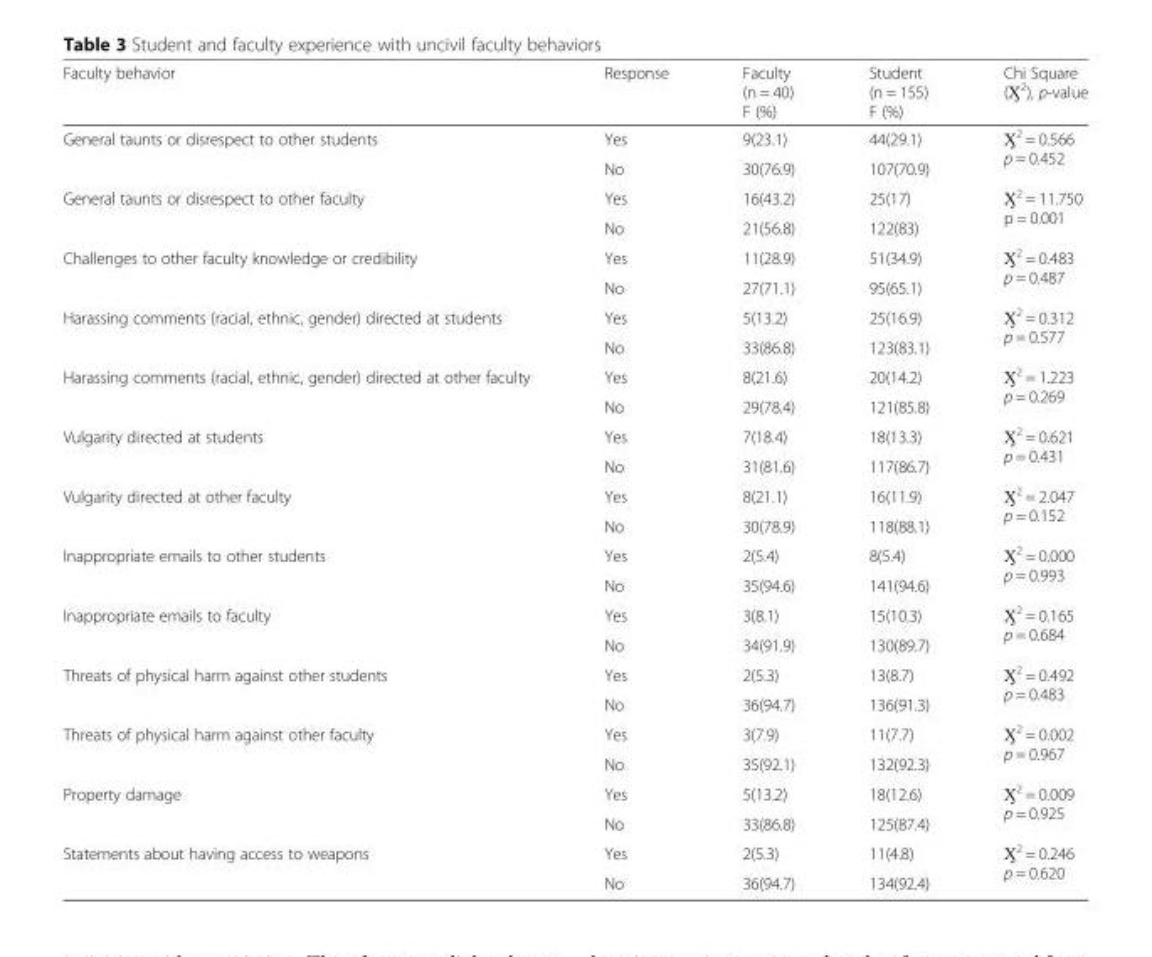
<table><thead><tr><td>Faculty behavior</td><td>Response</td><td>Faculty (n = 40) F (%)</td><td>Student (n = 155) F (%)</td><td>Chi Square (Ӽ<sup>2</sup>), p-value</td></tr></thead><tbody><tr><td rowspan="2">General taunts or disrespect to other students</td><td>Yes</td><td>9(23.1)</td><td>44(29.1)</td><td rowspan="2">Ӽ<sup>2</sup> = 0.566 p = 0.452</td></tr><tr><td>No</td><td>30(76.9)</td><td>107(70.9)</td></tr><tr><td rowspan="2">General taunts or disrespect to other faculty</td><td>Yes</td><td>16(43.2)</td><td>25(17)</td><td rowspan="2">Ӽ<sup>2</sup> = 11.750 p = 0.001</td></tr><tr><td>No</td><td>21(56.8)</td><td>122(83)</td></tr><tr><td rowspan="2">Challenges to other faculty knowledge or credibility</td><td>Yes</td><td>11(28.9)</td><td>51(34.9)</td><td rowspan="2">Ӽ<sup>2</sup> = 0.483 p = 0.487</td></tr><tr><td>No</td><td>27(71.1)</td><td>95(65.1)</td></tr><tr><td rowspan="2">Harassing comments (racial, ethnic, gender) directed at students</td><td>Yes</td><td>5(13.2)</td><td>25(16.9)</td><td rowspan="2">Ӽ<sup>2</sup> = 0.312 p = 0.577</td></tr><tr><td>No</td><td>33(86.8)</td><td>123(83.1)</td></tr><tr><td rowspan="2">Harassing comments (racial, ethnic, gender) directed at other faculty</td><td>Yes</td><td>8(21.6)</td><td>20(14.2)</td><td rowspan="2">Ӽ<sup>2</sup> = 1.223 p = 0.269</td></tr><tr><td>No</td><td>29(78.4)</td><td>121(85.8)</td></tr><tr><td rowspan="2">Vulgarity directed at students</td><td>Yes</td><td>7(18.4)</td><td>18(13.3)</td><td rowspan="2">Ӽ<sup>2</sup> = 0.621 p = 0.431</td></tr><tr><td>No</td><td>31(81.6)</td><td>117(86.7)</td></tr><tr><td rowspan="2">Vulgarity directed at other faculty</td><td>Yes</td><td>8(21.1)</td><td>16(11.9)</td><td rowspan="2">Ӽ<sup>2</sup> = 2.047 p = 0.152</td></tr><tr><td>No</td><td>30(78.9)</td><td>118(88.1)</td></tr><tr><td rowspan="2">Inappropriate emails to other students</td><td>Yes</td><td>2(5.4)</td><td>8(5.4)</td><td rowspan="2">Ӽ<sup>2</sup> = 0.000 p = 0.993</td></tr><tr><td>No</td><td>35(94.6)</td><td>141(94.6)</td></tr><tr><td rowspan="2">Inappropriate emails to faculty</td><td>Yes</td><td>3(8.1)</td><td>15(10.3)</td><td rowspan="2">Ӽ<sup>2</sup> = 0.165 p = 0.684</td></tr><tr><td>No</td><td>34(91.9)</td><td>130(89.7)</td></tr><tr><td rowspan="2">Threats of physical harm against other students</td><td>Yes</td><td>2(5.3)</td><td>13(8.7)</td><td rowspan="2">Ӽ<sup>2</sup> = 0.492 p = 0.483</td></tr><tr><td>No</td><td>36(94.7)</td><td>136(91.3)</td></tr><tr><td rowspan="2">Threats of physical harm against other faculty</td><td>Yes</td><td>3(7.9)</td><td>11(7.7)</td><td rowspan="2">Ӽ<sup>2</sup> = 0.002 p = 0.967</td></tr><tr><td>No</td><td>35(92.1)</td><td>132(92.3)</td></tr><tr><td rowspan="2">Property damage</td><td>Yes</td><td>5(13.2)</td><td>18(12.6)</td><td rowspan="2">Ӽ<sup>2</sup> = 0.009 p = 0.925</td></tr><tr><td>No</td><td>33(86.8)</td><td>125(87.4)</td></tr><tr><td rowspan="2">Statements about having access to weapons</td><td>Yes</td><td>2(5.3)</td><td>11(4.8)</td><td rowspan="2">Ӽ<sup>2</sup> = 0.246 p = 0.620</td></tr><tr><td>No</td><td>36(94.7)</td><td>134(92.4)</td></tr></tbody></table>